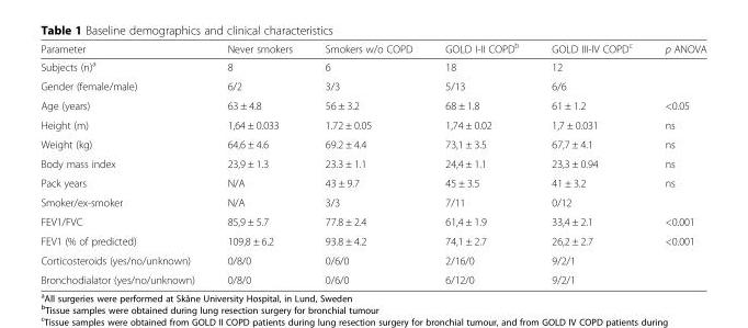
<table><thead><tr><td>Parameter</td><td>Never smokers</td><td>Smokers w/o COPD</td><td>GOLD I-II COPD<sup>b</sup></td><td>GOLD III-IV COPD<sup>c</sup></td><td>p ANOVA</td></tr></thead><tbody><tr><td>Subjects (n)<sup>a</sup></td><td>8</td><td>6</td><td>18</td><td>12</td><td></td></tr><tr><td>Gender (female/male)</td><td>6/2</td><td>3/3</td><td>5/13</td><td>6/6</td><td></td></tr><tr><td>Age (years)</td><td>63 ± 4.8</td><td>56 ± 3.2</td><td>68 ± 1.8</td><td>61 ± 1.2</td><td>&lt;0.05</td></tr><tr><td>Height (m)</td><td>1,64 ± 0.033</td><td>1.72 ± 0.05</td><td>1,74 ± 0.02</td><td>1,7 ± 0.031</td><td>ns</td></tr><tr><td>Weight (kg)</td><td>64,6 ± 4.6</td><td>69.2 ± 4.4</td><td>73,1 ± 3.5</td><td>67,7 ± 4.1</td><td>ns</td></tr><tr><td>Body mass index</td><td>23,9 ± 1.3</td><td>23.3 ± 1.1</td><td>24,4 ± 1.1</td><td>23,3 ± 0.94</td><td>ns</td></tr><tr><td>Pack years</td><td>N/A</td><td>43 ± 9.7</td><td>45 ± 3.5</td><td>41 ± 3.2</td><td>ns</td></tr><tr><td>Smoker/ex-smoker</td><td>N/A</td><td>3/3</td><td>7/11</td><td>0/12</td><td></td></tr><tr><td>FEV1/FVC</td><td>85,9 ± 5.7</td><td>77.8 ± 2.4</td><td>61,4 ± 1.9</td><td>33,4 ± 2.1</td><td>&lt;0.001</td></tr><tr><td>FEV1 (% of predicted)</td><td>109,8 ± 6.2</td><td>93.8 ± 4.2</td><td>74,1 ± 2.7</td><td>26,2 ± 2.7</td><td>&lt;0.001</td></tr><tr><td>Corticosteroids (yes/no/unknown)</td><td>0/8/0</td><td>0/6/0</td><td>2/16/0</td><td>9/2/1</td><td></td></tr><tr><td>Bronchodialator (yes/no/unknown)</td><td>0/8/0</td><td>0/6/0</td><td>6/12/0</td><td>9/2/1</td><td></td></tr></tbody></table>